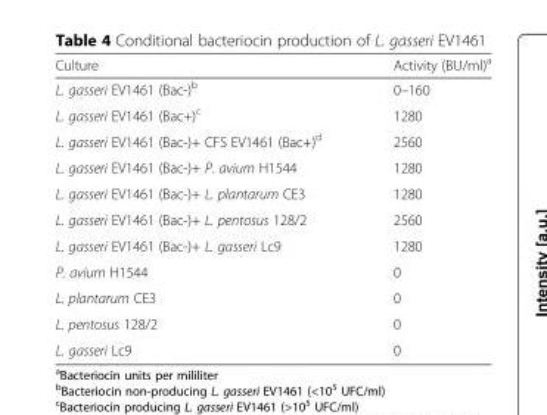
<table><thead><tr><td>Culture</td><td>Activity (BU/ml)<sup>a</sup></td></tr></thead><tbody><tr><td>L. gasseri EV1461 (Bac-)<sup>b</sup></td><td>0–160</td></tr><tr><td>L. gasseri EV1461 (Bac+)<sup>c</sup></td><td>1280</td></tr><tr><td>L. gasseri EV1461 (Bac-)+ CFS EV1461 (Bac+)<sup>d</sup></td><td>2560</td></tr><tr><td>L. gasseri EV1461 (Bac-)+ P. avium H1544</td><td>1280</td></tr><tr><td>L. gasseri EV1461 (Bac-)+ L. plantarum CE3</td><td>1280</td></tr><tr><td>L. gasseri EV1461 (Bac-)+ L. pentosus 128/2</td><td>2560</td></tr><tr><td>L. gasseri EV1461 (Bac-)+ L. gasseri Lc9</td><td>1280</td></tr><tr><td>P. avium H1544</td><td>0</td></tr><tr><td>L. plantarum CE3</td><td>0</td></tr><tr><td>L. pentosus 128/2</td><td>0</td></tr><tr><td>L. gasseri Lc9</td><td>0</td></tr></tbody></table>